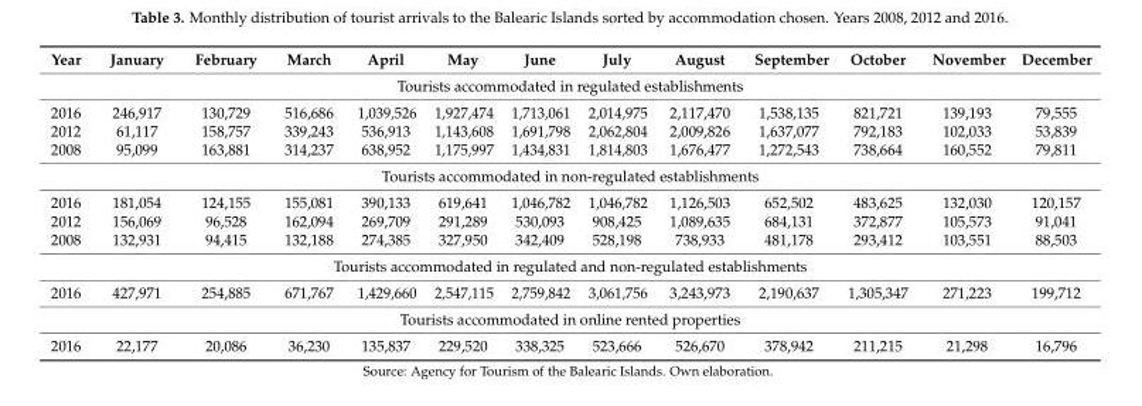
<table><thead><tr><td>Year</td><td>January</td><td>February</td><td>March</td><td>April</td><td>May</td><td>June</td><td>July</td><td>August</td><td>September</td><td>October</td><td>November</td><td>December</td></tr></thead><tbody><tr><td colspan="13">Tourists accommodated in regulated establishments</td></tr><tr><td>2016</td><td>246,917</td><td>130,729</td><td>516,686</td><td>1,039,526</td><td>1,927,474</td><td>1,713,061</td><td>2,014,975</td><td>2,117,470</td><td>1,538,135</td><td>821,721</td><td>139,193</td><td>79,555</td></tr><tr><td>2012</td><td>61,117</td><td>158,757</td><td>339,243</td><td>536,913</td><td>1,143,608</td><td>1,691,798</td><td>2,062,804</td><td>2,009,826</td><td>1,637,077</td><td>792,183</td><td>102,033</td><td>53,839</td></tr><tr><td>2008</td><td>95,099</td><td>163,881</td><td>314,237</td><td>638,952</td><td>1,175,997</td><td>1,434,831</td><td>1,814,803</td><td>1,676,477</td><td>1,272,543</td><td>738,664</td><td>160,552</td><td>79,811</td></tr><tr><td colspan="13">Tourists accommodated in non-regulated establishments</td></tr><tr><td>2016</td><td>181,054</td><td>124,155</td><td>155,081</td><td>390,133</td><td>619,641</td><td>1,046,782</td><td>1,046,782</td><td>1,126,503</td><td>652,502</td><td>483,625</td><td>132,030</td><td>120,157</td></tr><tr><td>2012</td><td>156,069</td><td>96,528</td><td>162,094</td><td>269,709</td><td>291,289</td><td>530,093</td><td>908,425</td><td>1,089,635</td><td>684,131</td><td>372,877</td><td>105,573</td><td>91,041</td></tr><tr><td>2008</td><td>132,931</td><td>94,415</td><td>132,188</td><td>274,385</td><td>327,950</td><td>342,409</td><td>528,198</td><td>738,933</td><td>481,178</td><td>293,412</td><td>103,551</td><td>88,503</td></tr><tr><td colspan="13">Tourists accommodated in regulated and non-regulated establishments</td></tr><tr><td>2016</td><td>427,971</td><td>254,885</td><td>671,767</td><td>1,429,660</td><td>2,547,115</td><td>2,759,842</td><td>3,061,756</td><td>3,243,973</td><td>2,190,637</td><td>1,305,347</td><td>271,223</td><td>199,712</td></tr><tr><td colspan="13">Tourists accommodated in online rented properties</td></tr><tr><td>2016</td><td>22,177</td><td>20,086</td><td>36,230</td><td>135,837</td><td>229,520</td><td>338,325</td><td>523,666</td><td>526,670</td><td>378,942</td><td>211,215</td><td>21,298</td><td>16,796</td></tr></tbody></table>